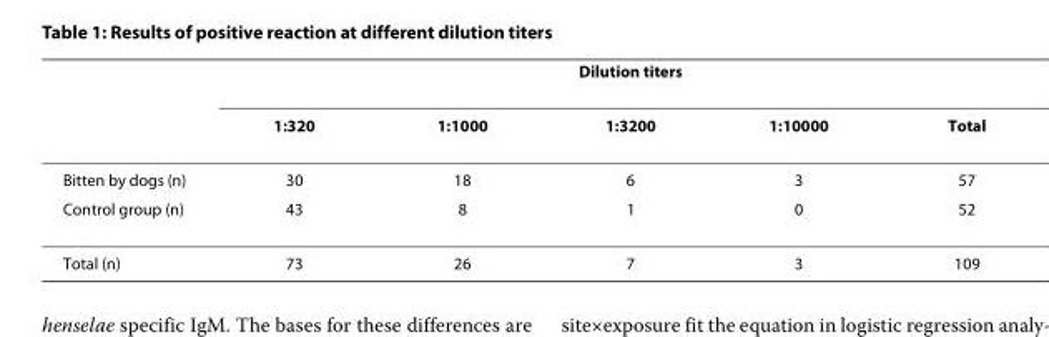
<table><thead><tr><td rowspan="2"></td><td colspan="5">Dilution titers</td></tr><tr><td>1:320</td><td>1:1000</td><td>1:3200</td><td>1:10000</td><td>Total</td></tr></thead><tbody><tr><td>Bitten by dogs (n)</td><td>30</td><td>18</td><td>6</td><td>3</td><td>57</td></tr><tr><td>Control group (n)</td><td>43</td><td>8</td><td>1</td><td>0</td><td>52</td></tr><tr><td>Total (n)</td><td>73</td><td>26</td><td>7</td><td>3</td><td>109</td></tr></tbody></table>